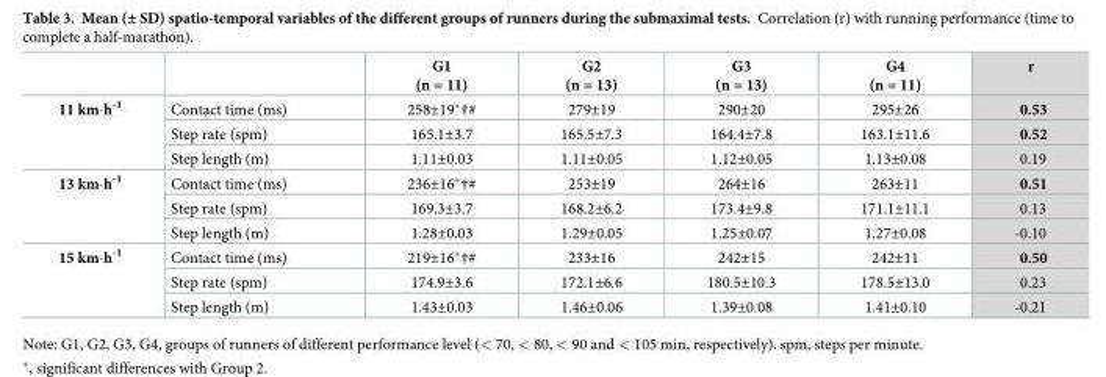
<table><thead><tr><td></td><td></td><td>G1 (n = 11)</td><td>G2 (n = 13)</td><td>G3 (n = 13)</td><td>G4 (n = 11)</td><td>r</td></tr></thead><tbody><tr><td rowspan="3">11 km·h<sup>-1</sup></td><td>Contact time (ms)</td><td>258±19*†#</td><td>279±19</td><td>290±20</td><td>295±26</td><td>0.53</td></tr><tr><td>Step rate (spm)</td><td>165.1±3.7</td><td>165.5±7.3</td><td>164.4±7.8</td><td>163.1±11.6</td><td>0.52</td></tr><tr><td>Step length (m)</td><td>1.11±0.03</td><td>1.11±0.05</td><td>1.12±0.05</td><td>1.13±0.08</td><td>0.19</td></tr><tr><td rowspan="3">13 km·h<sup>-1</sup></td><td>Contact time (ms)</td><td>236±16*†#</td><td>253±19</td><td>264±16</td><td>263±11</td><td>0.51</td></tr><tr><td>Step rate (spm)</td><td>169.3±3.7</td><td>168.2±6.2</td><td>173.4±9.8</td><td>171.1±11.1</td><td>0.13</td></tr><tr><td>Step length (m)</td><td>1.28±0.03</td><td>1.29±0.05</td><td>1.25±0.07</td><td>1.27±0.08</td><td>-0.10</td></tr><tr><td rowspan="3">15 km·h<sup>-1</sup></td><td>Contact time (ms)</td><td>219±16*†#</td><td>233±16</td><td>242±15</td><td>242±11</td><td>0.50</td></tr><tr><td>Step rate (spm)</td><td>174.9±3.6</td><td>172.1±6.6</td><td>180.5±10.3</td><td>178.5±13.0</td><td>0.23</td></tr><tr><td>Step length (m)</td><td>1.43±0.03</td><td>1.46±0.06</td><td>1.39±0.08</td><td>1.41±0.10</td><td>-0.21</td></tr></tbody></table>